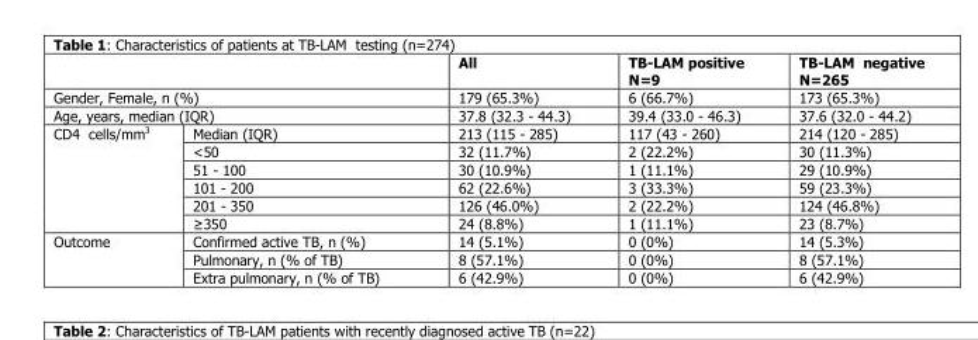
<table><thead><tr><td></td><td></td><td>All</td><td>TB-LAM positive N=9</td><td>TB-LAM negative N=265</td></tr></thead><tbody><tr><td colspan="2">Gender, Female, n (%)</td><td>179 (65.3%)</td><td>6 (66.7%)</td><td>173 (65.3%)</td></tr><tr><td colspan="2">Age, years, median (IQR)</td><td>37.8 (32.3 - 44.3)</td><td>39.4 (33.0 - 46.3)</td><td>37.6 (32.0 - 44.2)</td></tr><tr><td rowspan="6">CD4 cells/mm<sup>3</sup></td><td>Median (IQR)</td><td>213 (115 - 285)</td><td>117 (43 - 260)</td><td>214 (120 - 285)</td></tr><tr><td>&lt;50</td><td>32 (11.7%)</td><td>2 (22.2%)</td><td>30 (11.3%)</td></tr><tr><td>51 - 100</td><td>30 (10.9%)</td><td>1 (11.1%)</td><td>29 (10.9%)</td></tr><tr><td>101 - 200</td><td>62 (22.6%)</td><td>3 (33.3%)</td><td>59 (23.3%)</td></tr><tr><td>201 - 350</td><td>126 (46.0%)</td><td>2 (22.2%)</td><td>124 (46.8%)</td></tr><tr><td>≥350</td><td>24 (8.8%)</td><td>1 (11.1%)</td><td>23 (8.7%)</td></tr><tr><td rowspan="3">Outcome</td><td>Confirmed active TB, n (%)</td><td>14 (5.1%)</td><td>0 (0%)</td><td>14 (5.3%)</td></tr><tr><td>Pulmonary, n (% of TB)</td><td>8 (57.1%)</td><td>0 (0%)</td><td>8 (57.1%)</td></tr><tr><td>Extra pulmonary, n (% of TB)</td><td>6 (42.9%)</td><td>0 (0%)</td><td>6 (42.9%)</td></tr></tbody></table>